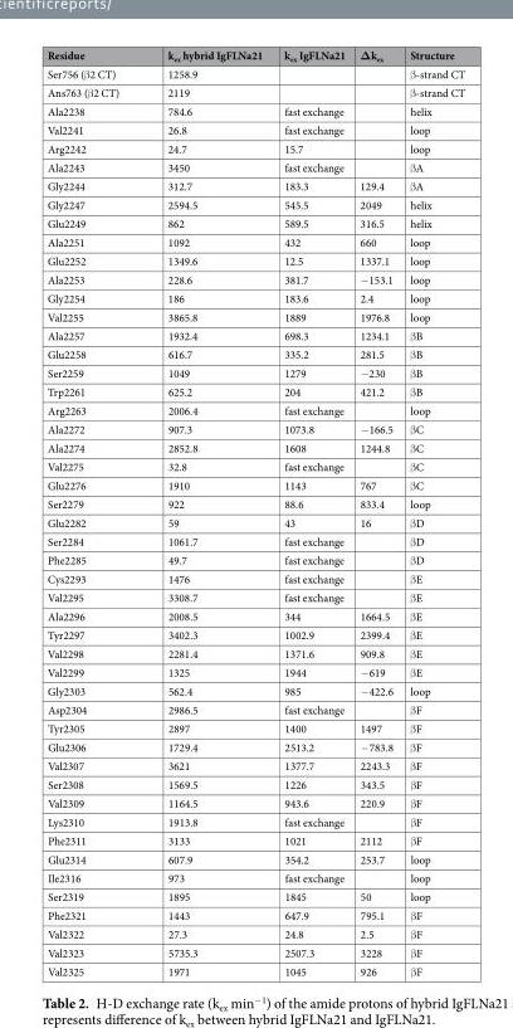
<table><thead><tr><td>Residue</td><td>k<sub>ex</sub> hybrid IgFLNa21</td><td>k<sub>ex</sub> IgFLNa21</td><td>Δk<sub>ex</sub></td><td>Structure</td></tr></thead><tbody><tr><td>Ser756 (β2 CT)</td><td>1258.9</td><td></td><td></td><td>β-strand CT</td></tr><tr><td>Ans763 (β2 CT)</td><td>2119</td><td></td><td></td><td>β-strand CT</td></tr><tr><td>Ala2238</td><td>784.6</td><td>fast exchange</td><td></td><td>helix</td></tr><tr><td>Val2241</td><td>26.8</td><td>fast exchange</td><td></td><td>loop</td></tr><tr><td>Arg2242</td><td>24.7</td><td>15.7</td><td></td><td>loop</td></tr><tr><td>Ala2243</td><td>3450</td><td>fast exchange</td><td></td><td>βA</td></tr><tr><td>Gly2244</td><td>312.7</td><td>183.3</td><td>129.4</td><td>βA</td></tr><tr><td>Gly2247</td><td>2594.5</td><td>545.5</td><td>2049</td><td>helix</td></tr><tr><td>Glu2249</td><td>862</td><td>589.5</td><td>316.5</td><td>helix</td></tr><tr><td>Ala2251</td><td>1092</td><td>432</td><td>660</td><td>loop</td></tr><tr><td>Glu2252</td><td>1349.6</td><td>12.5</td><td>1337.1</td><td>loop</td></tr><tr><td>Ala2253</td><td>228.6</td><td>381.7</td><td>−153.1</td><td>loop</td></tr><tr><td>Gly2254</td><td>186</td><td>183.6</td><td>2.4</td><td>loop</td></tr><tr><td>Val2255</td><td>3865.8</td><td>1889</td><td>1976.8</td><td>loop</td></tr><tr><td>Ala2257</td><td>1932.4</td><td>698.3</td><td>1234.1</td><td>βB</td></tr><tr><td>Glu2258</td><td>616.7</td><td>335.2</td><td>281.5</td><td>βB</td></tr><tr><td>Ser2259</td><td>1049</td><td>1279</td><td>−230</td><td>βB</td></tr><tr><td>Trp2261</td><td>625.2</td><td>204</td><td>421.2</td><td>βB</td></tr><tr><td>Arg2263</td><td>2006.4</td><td>fast exchange</td><td></td><td>loop</td></tr><tr><td>Ala2272</td><td>907.3</td><td>1073.8</td><td>−166.5</td><td>βC</td></tr><tr><td>Ala2274</td><td>2852.8</td><td>1608</td><td>1244.8</td><td>βC</td></tr><tr><td>Val2275</td><td>32.8</td><td>fast exchange</td><td></td><td>βC</td></tr><tr><td>Glu2276</td><td>1910</td><td>1143</td><td>767</td><td>βC</td></tr><tr><td>Ser2279</td><td>922</td><td>88.6</td><td>833.4</td><td>loop</td></tr><tr><td>Glu2282</td><td>59</td><td>43</td><td>16</td><td>βD</td></tr><tr><td>Ser2284</td><td>1061.7</td><td>fast exchange</td><td></td><td>βD</td></tr><tr><td>Phe2285</td><td>49.7</td><td>fast exchange</td><td></td><td>βD</td></tr><tr><td>Cys2293</td><td>1476</td><td>fast exchange</td><td></td><td>βE</td></tr><tr><td>Val2295</td><td>3308.7</td><td>fast exchange</td><td></td><td>βE</td></tr><tr><td>Ala2296</td><td>2008.5</td><td>344</td><td>1664.5</td><td>βE</td></tr><tr><td>Tyr2297</td><td>3402.3</td><td>1002.9</td><td>2399.4</td><td>βE</td></tr><tr><td>Val2298</td><td>2281.4</td><td>1371.6</td><td>909.8</td><td>βE</td></tr><tr><td>Val2299</td><td>1325</td><td>1944</td><td>−619</td><td>βE</td></tr><tr><td>Gly2303</td><td>562.4</td><td>985</td><td>−422.6</td><td>loop</td></tr><tr><td>Asp2304</td><td>2986.5</td><td>fast exchange</td><td></td><td>βF</td></tr><tr><td>Tyr2305</td><td>2897</td><td>1400</td><td>1497</td><td>βF</td></tr><tr><td>Glu2306</td><td>1729.4</td><td>2513.2</td><td>−783.8</td><td>βF</td></tr><tr><td>Val2307</td><td>3621</td><td>1377.7</td><td>2243.3</td><td>βF</td></tr><tr><td>Ser2308</td><td>1569.5</td><td>1226</td><td>343.5</td><td>βF</td></tr><tr><td>Val2309</td><td>1164.5</td><td>943.6</td><td>220.9</td><td>βF</td></tr><tr><td>Lys2310</td><td>1913.8</td><td>fast exchange</td><td></td><td>βF</td></tr><tr><td>Phe2311</td><td>3133</td><td>1021</td><td>2112</td><td>βF</td></tr><tr><td>Glu2314</td><td>607.9</td><td>354.2</td><td>253.7</td><td>loop</td></tr><tr><td>Ile2316</td><td>973</td><td>fast exchange</td><td></td><td>loop</td></tr><tr><td>Ser2319</td><td>1895</td><td>1845</td><td>50</td><td>loop</td></tr><tr><td>Phe2321</td><td>1443</td><td>647.9</td><td>795.1</td><td>βF</td></tr><tr><td>Val2322</td><td>27.3</td><td>24.8</td><td>2.5</td><td>βF</td></tr><tr><td>Val2323</td><td>5735.3</td><td>2507.3</td><td>3228</td><td>βF</td></tr><tr><td>Val2325</td><td>1971</td><td>1045</td><td>926</td><td>βF</td></tr></tbody></table>